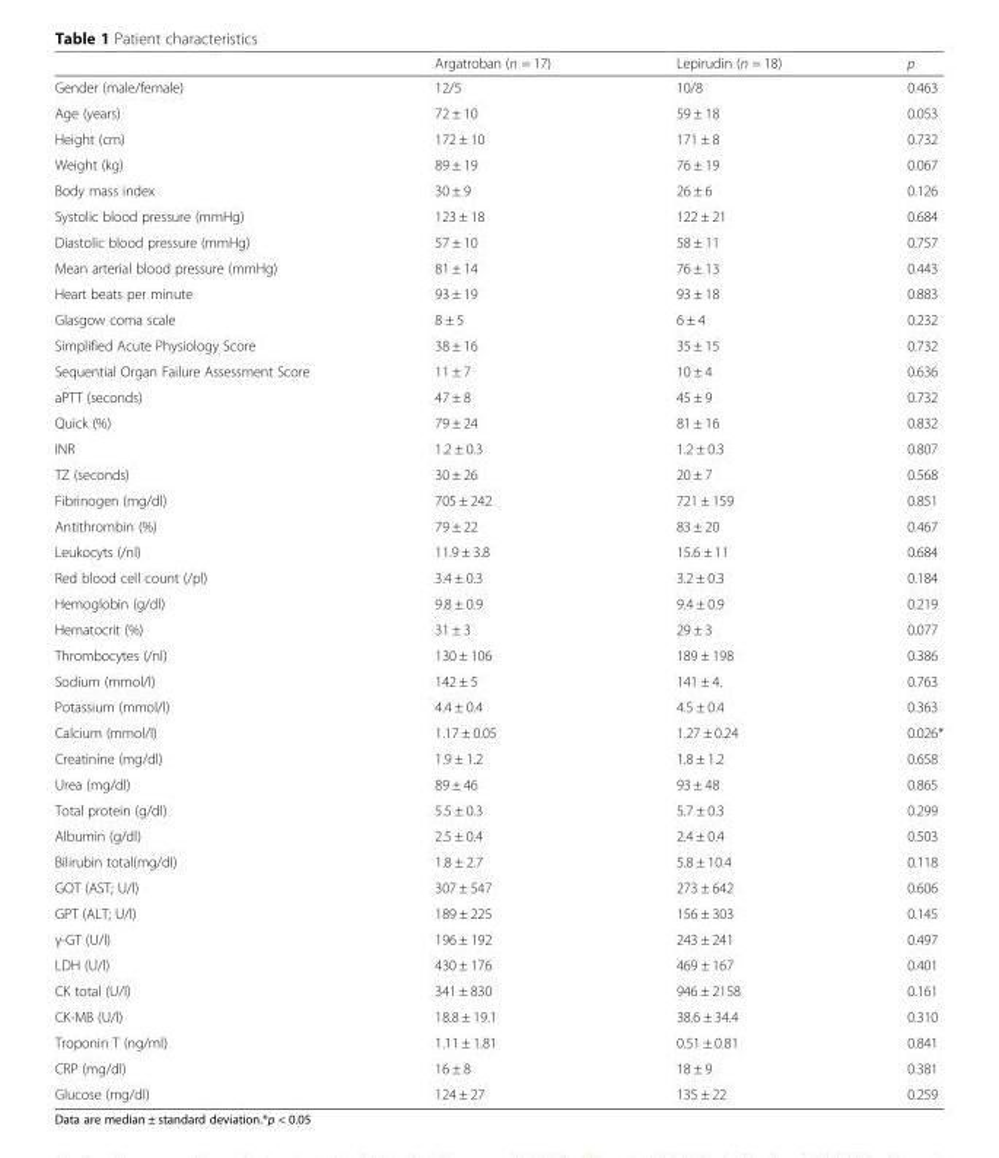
<table><thead><tr><td></td><td>Argatroban (n = 17)</td><td>Lepirudin (n = 18)</td><td>p</td></tr></thead><tbody><tr><td>Gender (male/female)</td><td>12/5</td><td>10/8</td><td>0.463</td></tr><tr><td>Age (years)</td><td>72 ± 10</td><td>59 ± 18</td><td>0.053</td></tr><tr><td>Height (cm)</td><td>172 ± 10</td><td>171 ± 8</td><td>0.732</td></tr><tr><td>Weight (kg)</td><td>89 ± 19</td><td>76 ± 19</td><td>0.067</td></tr><tr><td>Body mass index</td><td>30 ± 9</td><td>26 ± 6</td><td>0.126</td></tr><tr><td>Systolic blood pressure (mmHg)</td><td>123 ± 18</td><td>122 ± 21</td><td>0.684</td></tr><tr><td>Diastolic blood pressure (mmHg)</td><td>57 ± 10</td><td>58 ± 11</td><td>0.757</td></tr><tr><td>Mean arterial blood pressure (mmHg)</td><td>81 ± 14</td><td>76 ± 13</td><td>0.443</td></tr><tr><td>Heart beats per minute</td><td>93 ± 19</td><td>93 ± 18</td><td>0.883</td></tr><tr><td>Glasgow coma scale</td><td>8 ± 5</td><td>6 ± 4</td><td>0.232</td></tr><tr><td>Simplified Acute Physiology Score</td><td>38 ± 16</td><td>35 ± 15</td><td>0.732</td></tr><tr><td>Sequential Organ Failure Assessment Score</td><td>11 ± 7</td><td>10 ± 4</td><td>0.636</td></tr><tr><td>aPTT (seconds)</td><td>47 ± 8</td><td>45 ± 9</td><td>0.732</td></tr><tr><td>Quick (%)</td><td>79 ± 24</td><td>81 ± 16</td><td>0.832</td></tr><tr><td>INR</td><td>1.2 ± 0.3</td><td>1.2 ± 0.3</td><td>0.807</td></tr><tr><td>TZ (seconds)</td><td>30 ± 26</td><td>20 ± 7</td><td>0.568</td></tr><tr><td>Fibrinogen (mg/dl)</td><td>705 ± 242</td><td>721 ± 159</td><td>0.851</td></tr><tr><td>Antithrombin (%)</td><td>79 ± 22</td><td>83 ± 20</td><td>0.467</td></tr><tr><td>Leukocyts (/nl)</td><td>11.9 ± 3.8</td><td>15.6 ± 11</td><td>0.684</td></tr><tr><td>Red blood cell count (/pl)</td><td>3.4 ± 0.3</td><td>3.2 ± 0.3</td><td>0.184</td></tr><tr><td>Hemoglobin (g/dl)</td><td>9.8 ± 0.9</td><td>9.4 ± 0.9</td><td>0.219</td></tr><tr><td>Hematocrit (%)</td><td>31 ± 3</td><td>29 ± 3</td><td>0.077</td></tr><tr><td>Thrombocytes (/nl)</td><td>130 ± 106</td><td>189 ± 198</td><td>0.386</td></tr><tr><td>Sodium (mmol/l)</td><td>142 ± 5</td><td>141 ± 4.</td><td>0.763</td></tr><tr><td>Potassium (mmol/l)</td><td>4.4 ± 0.4</td><td>4.5 ± 0.4</td><td>0.363</td></tr><tr><td>Calcium (mmol/l)</td><td>1.17 ± 0.05</td><td>1.27 ± 0.24</td><td>0.026*</td></tr><tr><td>Creatinine (mg/dl)</td><td>1.9 ± 1.2</td><td>1.8 ± 1.2</td><td>0.658</td></tr><tr><td>Urea (mg/dl)</td><td>89 ± 46</td><td>93 ± 48</td><td>0.865</td></tr><tr><td>Total protein (g/dl)</td><td>5.5 ± 0.3</td><td>5.7 ± 0.3</td><td>0.299</td></tr><tr><td>Albumin (g/dl)</td><td>2.5 ± 0.4</td><td>2.4 ± 0.4</td><td>0.503</td></tr><tr><td>Bilirubin total(mg/dl)</td><td>1.8 ± 2.7</td><td>5.8 ± 10.4</td><td>0.118</td></tr><tr><td>GOT (AST; U/l)</td><td>307 ± 547</td><td>273 ± 642</td><td>0.606</td></tr><tr><td>GPT (ALT; U/l)</td><td>189 ± 225</td><td>156 ± 303</td><td>0.145</td></tr><tr><td>γ-GT (U/l)</td><td>196 ± 192</td><td>243 ± 241</td><td>0.497</td></tr><tr><td>LDH (U/l)</td><td>430 ± 176</td><td>469 ± 167</td><td>0.401</td></tr><tr><td>CK total (U/l)</td><td>341 ± 830</td><td>946 ± 2158</td><td>0.161</td></tr><tr><td>CK-MB (U/l)</td><td>18.8 ± 19.1</td><td>38.6 ± 34.4</td><td>0.310</td></tr><tr><td>Troponin T (ng/ml)</td><td>1.11 ± 1.81</td><td>0.51 ± 0.81</td><td>0.841</td></tr><tr><td>CRP (mg/dl)</td><td>16 ± 8</td><td>18 ± 9</td><td>0.381</td></tr><tr><td>Glucose (mg/dl)</td><td>124 ± 27</td><td>135 ± 22</td><td>0.259</td></tr></tbody></table>